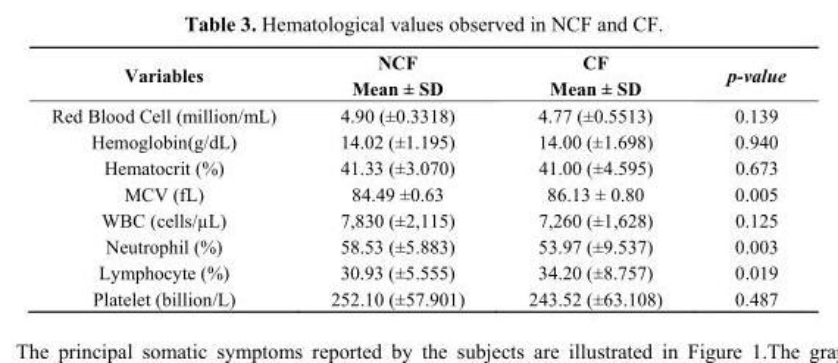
<table><thead><tr><td>Variables</td><td>NCF Mean ± SD</td><td>CF Mean ± SD</td><td>p-value</td></tr></thead><tbody><tr><td>Red Blood Cell (million/mL)</td><td>4.90 (±0.3318)</td><td>4.77 (±0.5513)</td><td>0.139</td></tr><tr><td>Hemoglobin(g/dL)</td><td>14.02 (±1.195)</td><td>14.00 (±1.698)</td><td>0.940</td></tr><tr><td>Hematocrit (%)</td><td>41.33 (±3.070)</td><td>41.00 (±4.595)</td><td>0.673</td></tr><tr><td>MCV (fL)</td><td>84.49 ±0.63</td><td>86.13 ± 0.80</td><td>0.005</td></tr><tr><td>WBC (cells/µL)</td><td>7,830 (±2,115)</td><td>7,260 (±1,628)</td><td>0.125</td></tr><tr><td>Neutrophil (%)</td><td>58.53 (±5.883)</td><td>53.97 (±9.537)</td><td>0.003</td></tr><tr><td>Lymphocyte (%)</td><td>30.93 (±5.555)</td><td>34.20 (±8.757)</td><td>0.019</td></tr><tr><td>Platelet (billion/L)</td><td>252.10 (±57.901)</td><td>243.52 (±63.108)</td><td>0.487</td></tr></tbody></table>